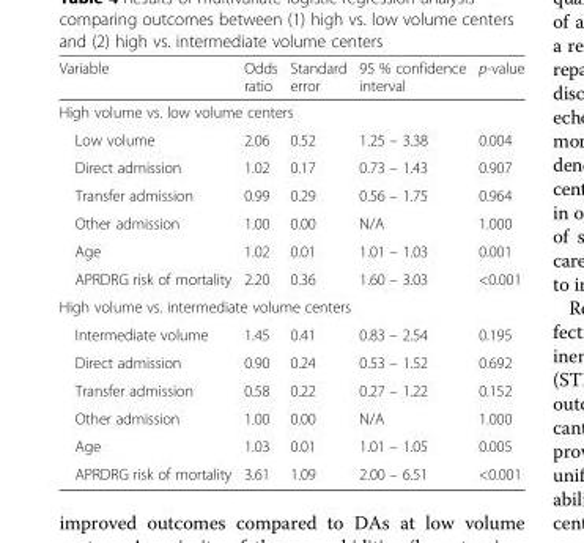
<table><thead><tr><td>Variable</td><td>Odds ratio</td><td>Standard error</td><td>95 % confidence interval</td><td>p-value</td></tr></thead><tbody><tr><td colspan="5">High volume vs. low volume centers</td></tr><tr><td>Low volume</td><td>2.06</td><td>0.52</td><td>1.25 – 3.38</td><td>0.004</td></tr><tr><td>Direct admission</td><td>1.02</td><td>0.17</td><td>0.73 – 1.43</td><td>0.907</td></tr><tr><td>Transfer admission</td><td>0.99</td><td>0.29</td><td>0.56 – 1.75</td><td>0.964</td></tr><tr><td>Other admission</td><td>1.00</td><td>0.00</td><td>N/A</td><td>1.000</td></tr><tr><td>Age</td><td>1.02</td><td>0.01</td><td>1.01 – 1.03</td><td>0.001</td></tr><tr><td>APRDRG risk of mortality</td><td>2.20</td><td>0.36</td><td>1.60 – 3.03</td><td>&lt;0.001</td></tr><tr><td colspan="5">High volume vs. intermediate volume centers</td></tr><tr><td>Intermediate volume</td><td>1.45</td><td>0.41</td><td>0.83 – 2.54</td><td>0.195</td></tr><tr><td>Direct admission</td><td>0.90</td><td>0.24</td><td>0.53 – 1.52</td><td>0.692</td></tr><tr><td>Transfer admission</td><td>0.58</td><td>0.22</td><td>0.27 – 1.22</td><td>0.152</td></tr><tr><td>Other admission</td><td>1.00</td><td>0.00</td><td>N/A</td><td>1.000</td></tr><tr><td>Age</td><td>1.03</td><td>0.01</td><td>1.01 – 1.05</td><td>0.005</td></tr><tr><td>APRDRG risk of mortality</td><td>3.61</td><td>1.09</td><td>2.00 – 6.51</td><td>&lt;0.001</td></tr></tbody></table>